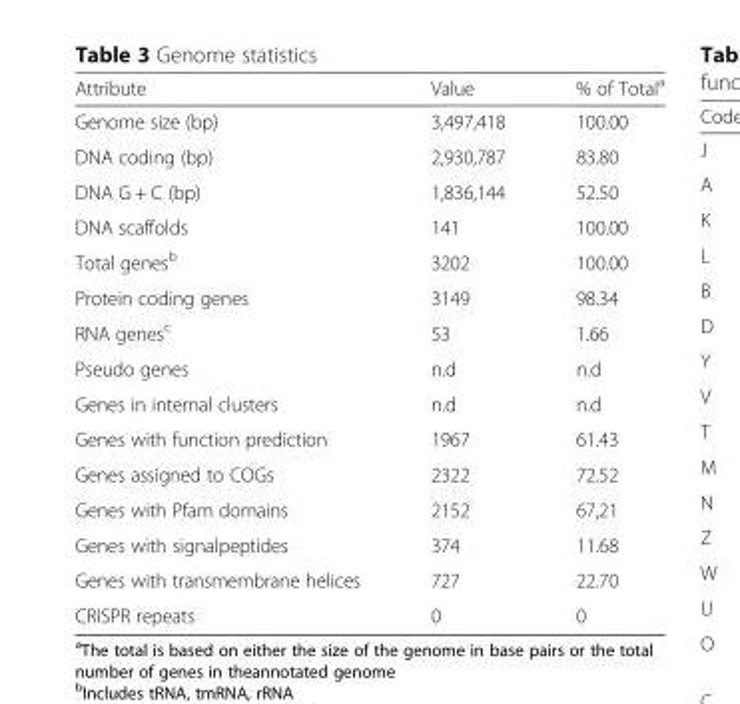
<table><thead><tr><td>Attribute</td><td>Value</td><td>% of Total<sup>a</sup></td></tr></thead><tbody><tr><td>Genome size (bp)</td><td>3,497,418</td><td>100.00</td></tr><tr><td>DNA coding (bp)</td><td>2,930,787</td><td>83.80</td></tr><tr><td>DNA G + C (bp)</td><td>1,836,144</td><td>52.50</td></tr><tr><td>DNA scaffolds</td><td>141</td><td>100.00</td></tr><tr><td>Total genes<sup>b</sup></td><td>3202</td><td>100.00</td></tr><tr><td>Protein coding genes</td><td>3149</td><td>98.34</td></tr><tr><td>RNA genes<sup>c</sup></td><td>53</td><td>1.66</td></tr><tr><td>Pseudo genes</td><td>n.d</td><td>n.d</td></tr><tr><td>Genes in internal clusters</td><td>n.d</td><td>n.d</td></tr><tr><td>Genes with function prediction</td><td>1967</td><td>61.43</td></tr><tr><td>Genes assigned to COGs</td><td>2322</td><td>72.52</td></tr><tr><td>Genes with Pfam domains</td><td>2152</td><td>67,21</td></tr><tr><td>Genes with signalpeptides</td><td>374</td><td>11.68</td></tr><tr><td>Genes with transmembrane helices</td><td>727</td><td>22.70</td></tr><tr><td>CRISPR repeats</td><td>0</td><td>0</td></tr></tbody></table>